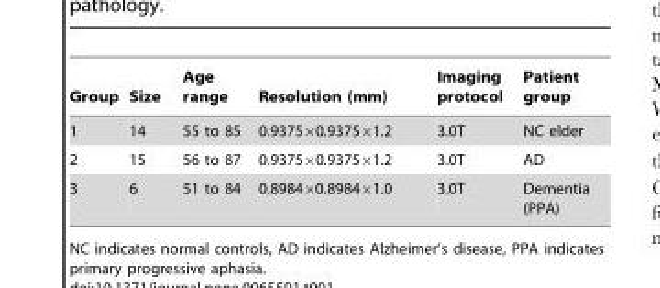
<table><thead><tr><td>Group</td><td>Size</td><td>Age range</td><td>Resolution (mm)</td><td>Imaging protocol</td><td>Patient group</td></tr></thead><tbody><tr><td>1</td><td>14</td><td>55 to 85</td><td>0.9375×0.9375×1.2</td><td>3.0T</td><td>NC elder</td></tr><tr><td>2</td><td>15</td><td>56 to 87</td><td>0.9375×0.9375×1.2</td><td>3.0T</td><td>AD</td></tr><tr><td>3</td><td>6</td><td>51 to 84</td><td>0.8984×0.8984×1.0</td><td>3.0T</td><td>Dementia (PPA)</td></tr></tbody></table>